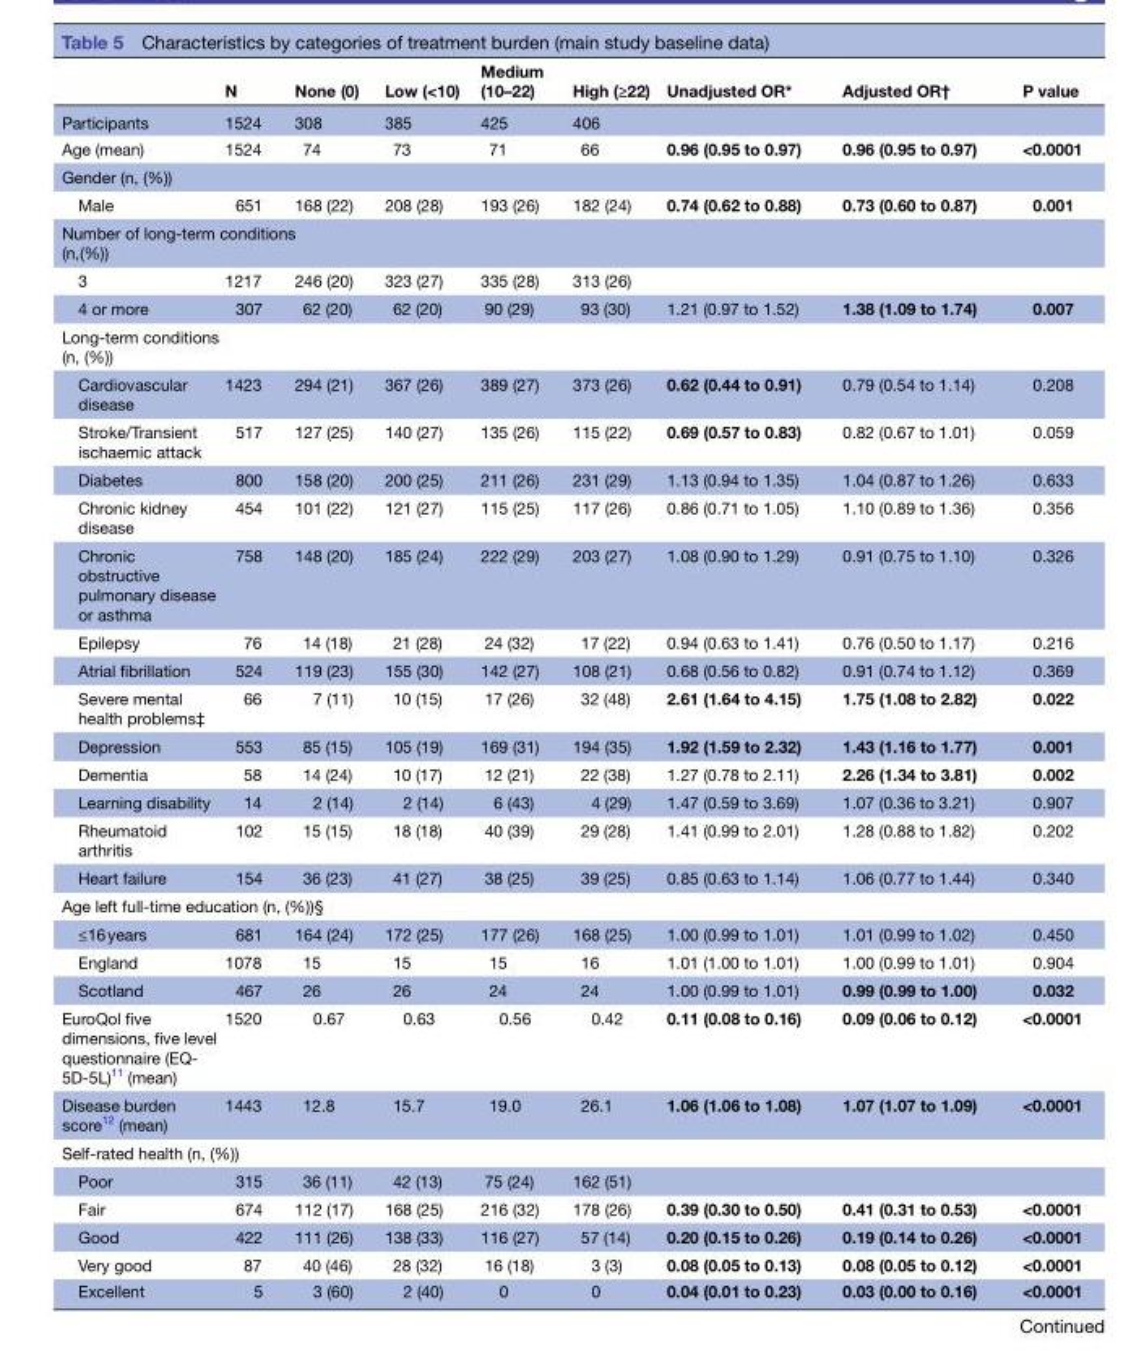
<table><thead><tr><td></td><td>N</td><td>None (0)</td><td>Low (&lt;10)</td><td>Medium (10–22)</td><td>High (≥22)</td><td>Unadjusted OR*</td><td>Adjusted OR†</td><td>P value</td></tr></thead><tbody><tr><td>Participants</td><td>1524</td><td>308</td><td>385</td><td>425</td><td>406</td><td></td><td></td><td></td></tr><tr><td>Age (mean)</td><td>1524</td><td>74</td><td>73</td><td>71</td><td>66</td><td>0.96 (0.95 to 0.97)</td><td>0.96 (0.95 to 0.97)</td><td>&lt;0.0001</td></tr><tr><td colspan="9">Gender (n, (%))</td></tr><tr><td>Male</td><td>651</td><td>168 (22)</td><td>208 (28)</td><td>193 (26)</td><td>182 (24)</td><td>0.74 (0.62 to 0.88)</td><td>0.73 (0.60 to 0.87)</td><td>0.001</td></tr><tr><td colspan="9">Number of long-term conditions (n,(%))</td></tr><tr><td>3</td><td>1217</td><td>246 (20)</td><td>323 (27)</td><td>335 (28)</td><td>313 (26)</td><td></td><td></td><td></td></tr><tr><td>4 or more</td><td>307</td><td>62 (20)</td><td>62 (20)</td><td>90 (29)</td><td>93 (30)</td><td>1.21 (0.97 to 1.52)</td><td>1.38 (1.09 to 1.74)</td><td>0.007</td></tr><tr><td colspan="9">Long-term conditions (n, (%))</td></tr><tr><td>Cardiovascular disease</td><td>1423</td><td>294 (21)</td><td>367 (26)</td><td>389 (27)</td><td>373 (26)</td><td>0.62 (0.44 to 0.91)</td><td>0.79 (0.54 to 1.14)</td><td>0.208</td></tr><tr><td>Stroke/Transient ischaemic attack</td><td>517</td><td>127 (25)</td><td>140 (27)</td><td>135 (26)</td><td>115 (22)</td><td>0.69 (0.57 to 0.83)</td><td>0.82 (0.67 to 1.01)</td><td>0.059</td></tr><tr><td>Diabetes</td><td>800</td><td>158 (20)</td><td>200 (25)</td><td>211 (26)</td><td>231 (29)</td><td>1.13 (0.94 to 1.35)</td><td>1.04 (0.87 to 1.26)</td><td>0.633</td></tr><tr><td>Chronic kidney disease</td><td>454</td><td>101 (22)</td><td>121 (27)</td><td>115 (25)</td><td>117 (26)</td><td>0.86 (0.71 to 1.05)</td><td>1.10 (0.89 to 1.36)</td><td>0.356</td></tr><tr><td>Chronic obstructive pulmonary disease or asthma</td><td>758</td><td>148 (20)</td><td>185 (24)</td><td>222 (29)</td><td>203 (27)</td><td>1.08 (0.90 to 1.29)</td><td>0.91 (0.75 to 1.10)</td><td>0.326</td></tr><tr><td>Epilepsy</td><td>76</td><td>14 (18)</td><td>21 (28)</td><td>24 (32)</td><td>17 (22)</td><td>0.94 (0.63 to 1.41)</td><td>0.76 (0.50 to 1.17)</td><td>0.216</td></tr><tr><td>Atrial fibrillation</td><td>524</td><td>119 (23)</td><td>155 (30)</td><td>142 (27)</td><td>108 (21)</td><td>0.68 (0.56 to 0.82)</td><td>0.91 (0.74 to 1.12)</td><td>0.369</td></tr><tr><td>Severe mental health problems‡</td><td>66</td><td>7 (11)</td><td>10 (15)</td><td>17 (26)</td><td>32 (48)</td><td>2.61 (1.64 to 4.15)</td><td>1.75 (1.08 to 2.82)</td><td>0.022</td></tr><tr><td>Depression</td><td>553</td><td>85 (15)</td><td>105 (19)</td><td>169 (31)</td><td>194 (35)</td><td>1.92 (1.59 to 2.32)</td><td>1.43 (1.16 to 1.77)</td><td>0.001</td></tr><tr><td>Dementia</td><td>58</td><td>14 (24)</td><td>10 (17)</td><td>12 (21)</td><td>22 (38)</td><td>1.27 (0.78 to 2.11)</td><td>2.26 (1.34 to 3.81)</td><td>0.002</td></tr><tr><td>Learning disability</td><td>14</td><td>2 (14)</td><td>2 (14)</td><td>6 (43)</td><td>4 (29)</td><td>1.47 (0.59 to 3.69)</td><td>1.07 (0.36 to 3.21)</td><td>0.907</td></tr><tr><td>Rheumatoid arthritis</td><td>102</td><td>15 (15)</td><td>18 (18)</td><td>40 (39)</td><td>29 (28)</td><td>1.41 (0.99 to 2.01)</td><td>1.28 (0.88 to 1.82)</td><td>0.202</td></tr><tr><td>Heart failure</td><td>154</td><td>36 (23)</td><td>41 (27)</td><td>38 (25)</td><td>39 (25)</td><td>0.85 (0.63 to 1.14)</td><td>1.06 (0.77 to 1.44)</td><td>0.340</td></tr><tr><td colspan="9">Age left full-time education (n, (%))§</td></tr><tr><td>≤16 years</td><td>681</td><td>164 (24)</td><td>172 (25)</td><td>177 (26)</td><td>168 (25)</td><td>1.00 (0.99 to 1.01)</td><td>1.01 (0.99 to 1.02)</td><td>0.450</td></tr><tr><td>England</td><td>1078</td><td>15</td><td>15</td><td>15</td><td>16</td><td>1.01 (1.00 to 1.01)</td><td>1.00 (0.99 to 1.01)</td><td>0.904</td></tr><tr><td>Scotland</td><td>467</td><td>26</td><td>26</td><td>24</td><td>24</td><td>1.00 (0.99 to 1.01)</td><td>0.99 (0.99 to 1.00)</td><td>0.032</td></tr><tr><td>EuroQol five dimensions, five level questionnaire (EQ- 5D-5L)<sup>11</sup> (mean)</td><td>1520</td><td>0.67</td><td>0.63</td><td>0.56</td><td>0.42</td><td>0.11 (0.08 to 0.16)</td><td>0.09 (0.06 to 0.12)</td><td>&lt;0.0001</td></tr><tr><td>Disease burden score<sup>12</sup> (mean)</td><td>1443</td><td>12.8</td><td>15.7</td><td>19.0</td><td>26.1</td><td>1.06 (1.06 to 1.08)</td><td>1.07 (1.07 to 1.09)</td><td>&lt;0.0001</td></tr><tr><td colspan="9">Self-rated health (n, (%))</td></tr><tr><td>Poor</td><td>315</td><td>36 (11)</td><td>42 (13)</td><td>75 (24)</td><td>162 (51)</td><td></td><td></td><td></td></tr><tr><td>Fair</td><td>674</td><td>112 (17)</td><td>168 (25)</td><td>216 (32)</td><td>178 (26)</td><td>0.39 (0.30 to 0.50)</td><td>0.41 (0.31 to 0.53)</td><td>&lt;0.0001</td></tr><tr><td>Good</td><td>422</td><td>111 (26)</td><td>138 (33)</td><td>116 (27)</td><td>57 (14)</td><td>0.20 (0.15 to 0.26)</td><td>0.19 (0.14 to 0.26)</td><td>&lt;0.0001</td></tr><tr><td>Very good</td><td>87</td><td>40 (46)</td><td>28 (32)</td><td>16 (18)</td><td>3 (3)</td><td>0.08 (0.05 to 0.13)</td><td>0.08 (0.05 to 0.12)</td><td>&lt;0.0001</td></tr><tr><td>Excellent</td><td>5</td><td>3 (60)</td><td>2 (40)</td><td>0</td><td>0</td><td>0.04 (0.01 to 0.23)</td><td>0.03 (0.00 to 0.16)</td><td>&lt;0.0001</td></tr></tbody></table>